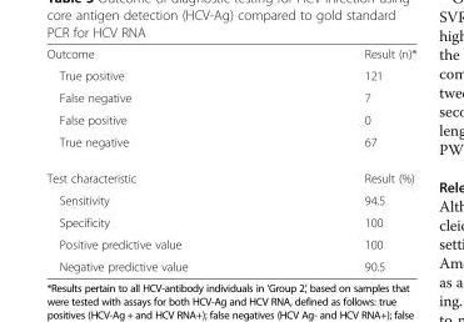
<table><tbody><tr><td>Outcome</td><td>Result (n)*</td></tr><tr><td>True positive</td><td>121</td></tr><tr><td>False negative</td><td>7</td></tr><tr><td>False positive</td><td>0</td></tr><tr><td>True negative</td><td>67</td></tr><tr><td>Test characteristic</td><td>Result (%)</td></tr><tr><td>Sensitivity</td><td>94.5</td></tr><tr><td>Specificity</td><td>100</td></tr><tr><td>Positive predictive value</td><td>100</td></tr><tr><td>Negative predictive value</td><td>90.5</td></tr></tbody></table>